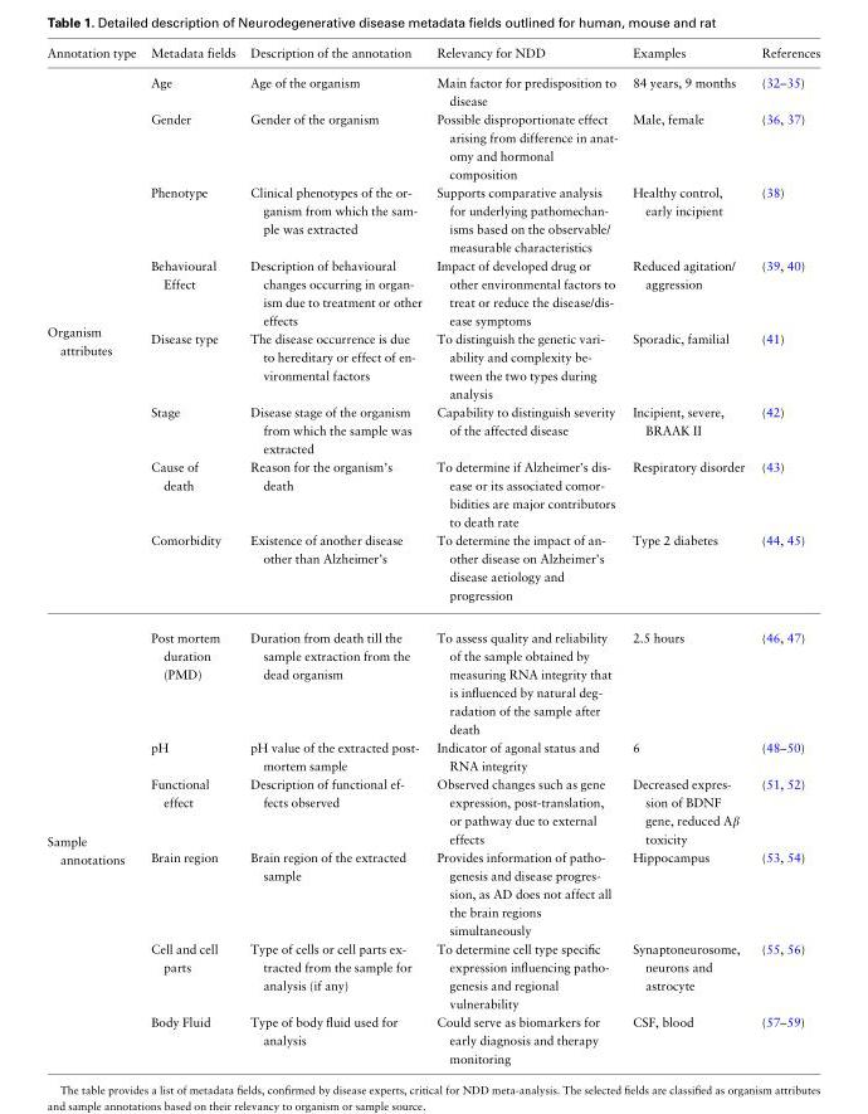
<table><thead><tr><td>Annotation type</td><td>Metadata fields</td><td>Description of the annotation</td><td>Relevancy for NDD</td><td>Examples</td><td>References</td></tr></thead><tbody><tr><td rowspan="8">Organism attributes</td><td>Age</td><td>Age of the organism</td><td>Main factor for predisposition to disease</td><td>84 years, 9 months</td><td>(32–35)</td></tr><tr><td>Gender</td><td>Gender of the organism</td><td>Possible disproportionate effect arising from difference in anat- omy and hormonal composition</td><td>Male, female</td><td>(36, 37)</td></tr><tr><td>Phenotype</td><td>Clinical phenotypes of the or- ganism from which the sam- ple was extracted</td><td>Supports comparative analysis for underlying pathomechan- isms based on the observable/ measurable characteristics</td><td>Healthy control, early incipient</td><td>(38)</td></tr><tr><td>Behavioural Effect</td><td>Description of behavioural changes occurring in organ- ism due to treatment or other effects</td><td>Impact of developed drug or other environmental factors to treat or reduce the disease/dis- ease symptoms</td><td>Reduced agitation/ aggression</td><td>(39, 40)</td></tr><tr><td>Disease type</td><td>The disease occurrence is due to hereditary or effect of en- vironmental factors</td><td>To distinguish the genetic vari- ability and complexity be- tween the two types during analysis</td><td>Sporadic, familial</td><td>(41)</td></tr><tr><td>Stage</td><td>Disease stage of the organism from which the sample was extracted</td><td>Capability to distinguish severity of the affected disease</td><td>Incipient, severe, BRAAK II</td><td>(42)</td></tr><tr><td>Cause of death</td><td>Reason for the organism’s death</td><td>To determine if Alzheimer’s dis- ease or its associated comor- bidities are major contributors to death rate</td><td>Respiratory disorder</td><td>(43)</td></tr><tr><td>Comorbidity</td><td>Existence of another disease other than Alzheimer’s</td><td>To determine the impact of an- other disease on Alzheimer’s disease aetiology and progression</td><td>Type 2 diabetes</td><td>(44, 45)</td></tr><tr><td rowspan="6">Sample annotations</td><td>Post mortem duration (PMD)</td><td>Duration from death till the sample extraction from the dead organism</td><td>To assess quality and reliability of the sample obtained by measuring RNA integrity that is influenced by natural deg- radation of the sample after death</td><td>2.5 hours</td><td>(46, 47)</td></tr><tr><td>pH</td><td>pH value of the extracted post- mortem sample</td><td>Indicator of agonal status and RNA integrity</td><td>6</td><td>(48–50)</td></tr><tr><td>Functional effect</td><td>Description of functional ef- fects observed</td><td>Observed changes such as gene expression, post-translation, or pathway due to external effects</td><td>Decreased expres- sion of BDNF gene, reduced Ab toxicity</td><td>(51, 52)</td></tr><tr><td>Brain region</td><td>Brain region of the extracted sample</td><td>Provides information of patho- genesis and disease progres- sion, as AD does not affect all the brain regions simultaneously</td><td>Hippocampus</td><td>(53, 54)</td></tr><tr><td>Cell and cell parts</td><td>Type of cells or cell parts ex- tracted from the sample for analysis (if any)</td><td>To determine cell type specific expression influencing patho- genesis and regional vulnerability</td><td>Synaptoneurosome, neurons and astrocyte</td><td>(55, 56)</td></tr><tr><td>Body Fluid</td><td>Type of body fluid used for analysis</td><td>Could serve as biomarkers for early diagnosis and therapy monitoring</td><td>CSF, blood</td><td>(57–59)</td></tr></tbody></table>